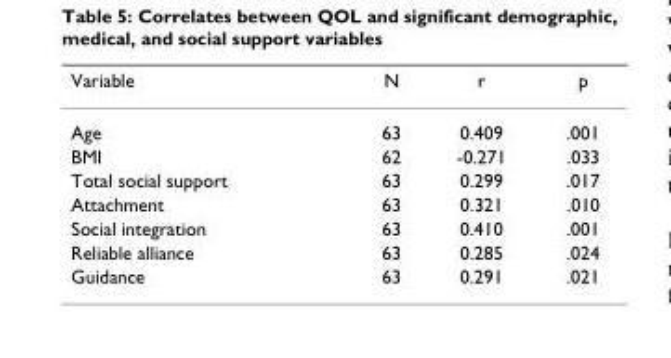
<table><thead><tr><td>Variable</td><td>N</td><td>r</td><td>p</td></tr></thead><tbody><tr><td>Age</td><td>63</td><td>0.409</td><td>.001</td></tr><tr><td>BMI</td><td>62</td><td>-0.271</td><td>.033</td></tr><tr><td>Total social support</td><td>63</td><td>0.299</td><td>.017</td></tr><tr><td>Attachment</td><td>63</td><td>0.321</td><td>.010</td></tr><tr><td>Social integration</td><td>63</td><td>0.410</td><td>.001</td></tr><tr><td>Reliable alliance</td><td>63</td><td>0.285</td><td>.024</td></tr><tr><td>Guidance</td><td>63</td><td>0.291</td><td>.021</td></tr></tbody></table>